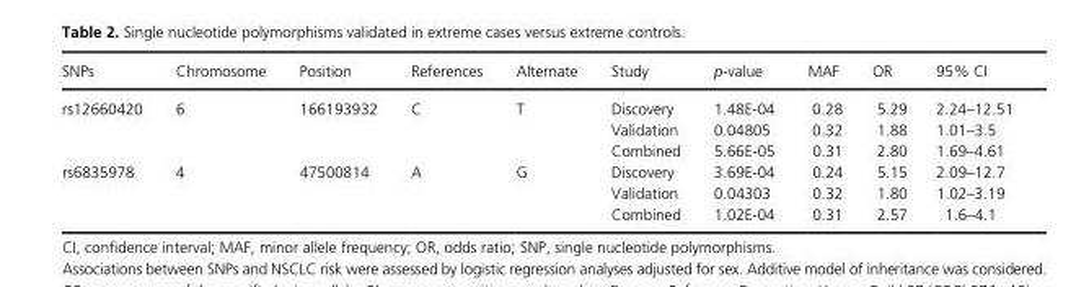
<table><thead><tr><td>SNPs</td><td>Chromosome</td><td>Position</td><td>References</td><td>Alternate</td><td>Study</td><td>p- value</td><td>MAF</td><td>OR</td><td>95% CI</td></tr></thead><tbody><tr><td rowspan="3">rs12660420</td><td rowspan="3">6</td><td rowspan="3">166193932</td><td rowspan="3">C</td><td rowspan="3">T</td><td>Discovery</td><td>1.48E- 04</td><td>0.28</td><td>5.29</td><td>2.24–12.51</td></tr><tr><td>Validation</td><td>0.04805</td><td>0.32</td><td>1.88</td><td>1.01–3.5</td></tr><tr><td>Combined</td><td>5.66E- 05</td><td>0.31</td><td>2.80</td><td>1.69–4.61</td></tr><tr><td rowspan="3">rs6835978</td><td rowspan="3">4</td><td rowspan="3">47500814</td><td rowspan="3">A</td><td rowspan="3">G</td><td>Discovery</td><td>3.69E- 04</td><td>0.24</td><td>5.15</td><td>2.09–12.7</td></tr><tr><td>Validation</td><td>0.04303</td><td>0.32</td><td>1.80</td><td>1.02–3.19</td></tr><tr><td>Combined</td><td>1.02E- 04</td><td>0.31</td><td>2.57</td><td>1.6–4.1</td></tr></tbody></table>